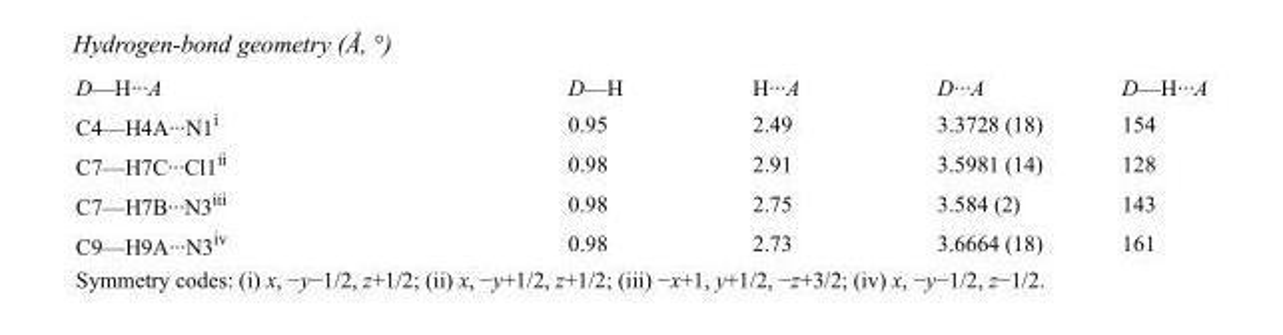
<table><tbody><tr><td>D—H···A</td><td>D—H</td><td>H···A</td><td>D···A</td><td>D—H···A</td></tr><tr><td>C4—H4A···N1<sup>i</sup></td><td>0.95</td><td>2.49</td><td>3.3728 (18)</td><td>154</td></tr><tr><td>C7—H7C···Cl1<sup>ii</sup></td><td>0.98</td><td>2.91</td><td>3.5981 (14)</td><td>128</td></tr><tr><td>C7—H7B···N3<sup>iii</sup></td><td>0.98</td><td>2.75</td><td>3.584 (2)</td><td>143</td></tr><tr><td>C9—H9A···N3<sup>iv</sup></td><td>0.98</td><td>2.73</td><td>3.6664 (18)</td><td>161</td></tr></tbody></table>